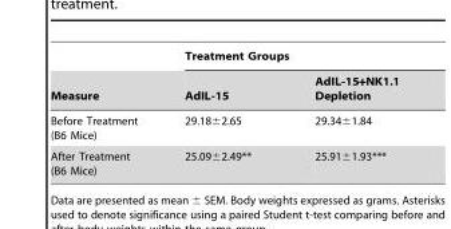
<table><thead><tr><td rowspan="2">Measure</td><td colspan="2">Treatment Groups</td></tr><tr><td>AdIL-15</td><td>AdIL-15+NK1.1 Depletion</td></tr></thead><tbody><tr><td>Before Treatment (B6 Mice)</td><td>29.18±2.65</td><td>29.34±1.84</td></tr><tr><td>After Treatment (B6 Mice)</td><td>25.09±2.49**</td><td>25.91±1.93***</td></tr></tbody></table>